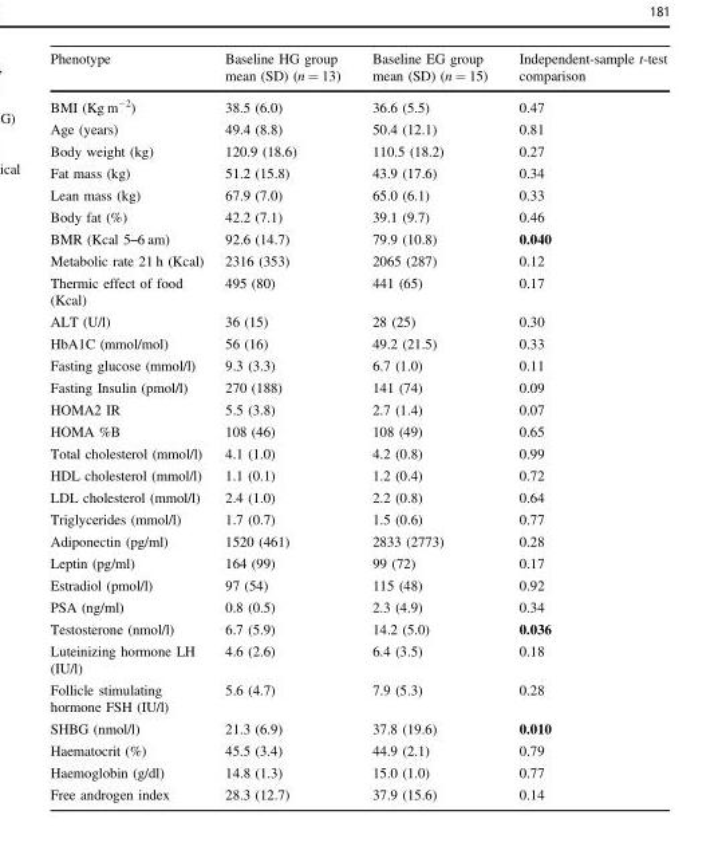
<table><thead><tr><td>Phenotype</td><td>Baseline HG group mean (SD) (n = 13)</td><td>Baseline EG group mean (SD) (n = 15)</td><td>Independent-sample t-test comparison</td></tr></thead><tbody><tr><td>BMI (Kg m<sup>−2</sup>)</td><td>38.5 (6.0)</td><td>36.6 (5.5)</td><td>0.47</td></tr><tr><td>Age (years)</td><td>49.4 (8.8)</td><td>50.4 (12.1)</td><td>0.81</td></tr><tr><td>Body weight (kg)</td><td>120.9 (18.6)</td><td>110.5 (18.2)</td><td>0.27</td></tr><tr><td>Fat mass (kg)</td><td>51.2 (15.8)</td><td>43.9 (17.6)</td><td>0.34</td></tr><tr><td>Lean mass (kg)</td><td>67.9 (7.0)</td><td>65.0 (6.1)</td><td>0.33</td></tr><tr><td>Body fat (%)</td><td>42.2 (7.1)</td><td>39.1 (9.7)</td><td>0.46</td></tr><tr><td>BMR (Kcal 5–6 am)</td><td>92.6 (14.7)</td><td>79.9 (10.8)</td><td>0.040</td></tr><tr><td>Metabolic rate 21 h (Kcal)</td><td>2316 (353)</td><td>2065 (287)</td><td>0.12</td></tr><tr><td>Thermic effect of food (Kcal)</td><td>495 (80)</td><td>441 (65)</td><td>0.17</td></tr><tr><td>ALT (U/l)</td><td>36 (15)</td><td>28 (25)</td><td>0.30</td></tr><tr><td>HbA1C (mmol/mol)</td><td>56 (16)</td><td>49.2 (21.5)</td><td>0.33</td></tr><tr><td>Fasting glucose (mmol/l)</td><td>9.3 (3.3)</td><td>6.7 (1.0)</td><td>0.11</td></tr><tr><td>Fasting Insulin (pmol/l)</td><td>270 (188)</td><td>141 (74)</td><td>0.09</td></tr><tr><td>HOMA2 IR</td><td>5.5 (3.8)</td><td>2.7 (1.4)</td><td>0.07</td></tr><tr><td>HOMA %B</td><td>108 (46)</td><td>108 (49)</td><td>0.65</td></tr><tr><td>Total cholesterol (mmol/l)</td><td>4.1 (1.0)</td><td>4.2 (0.8)</td><td>0.99</td></tr><tr><td>HDL cholesterol (mmol/l)</td><td>1.1 (0.1)</td><td>1.2 (0.4)</td><td>0.72</td></tr><tr><td>LDL cholesterol (mmol/l)</td><td>2.4 (1.0)</td><td>2.2 (0.8)</td><td>0.64</td></tr><tr><td>Triglycerides (mmol/l)</td><td>1.7 (0.7)</td><td>1.5 (0.6)</td><td>0.77</td></tr><tr><td>Adiponectin (pg/ml)</td><td>1520 (461)</td><td>2833 (2773)</td><td>0.28</td></tr><tr><td>Leptin (pg/ml)</td><td>164 (99)</td><td>99 (72)</td><td>0.17</td></tr><tr><td>Estradiol (pmol/l)</td><td>97 (54)</td><td>115 (48)</td><td>0.92</td></tr><tr><td>PSA (ng/ml)</td><td>0.8 (0.5)</td><td>2.3 (4.9)</td><td>0.34</td></tr><tr><td>Testosterone (nmol/l)</td><td>6.7 (5.9)</td><td>14.2 (5.0)</td><td>0.036</td></tr><tr><td>Luteinizing hormone LH (IU/l)</td><td>4.6 (2.6)</td><td>6.4 (3.5)</td><td>0.18</td></tr><tr><td>Follicle stimulating hormone FSH (IU/l)</td><td>5.6 (4.7)</td><td>7.9 (5.3)</td><td>0.28</td></tr><tr><td>SHBG (nmol/l)</td><td>21.3 (6.9)</td><td>37.8 (19.6)</td><td>0.010</td></tr><tr><td>Haematocrit (%)</td><td>45.5 (3.4)</td><td>44.9 (2.1)</td><td>0.79</td></tr><tr><td>Haemoglobin (g/dl)</td><td>14.8 (1.3)</td><td>15.0 (1.0)</td><td>0.77</td></tr><tr><td>Free androgen index</td><td>28.3 (12.7)</td><td>37.9 (15.6)</td><td>0.14</td></tr></tbody></table>